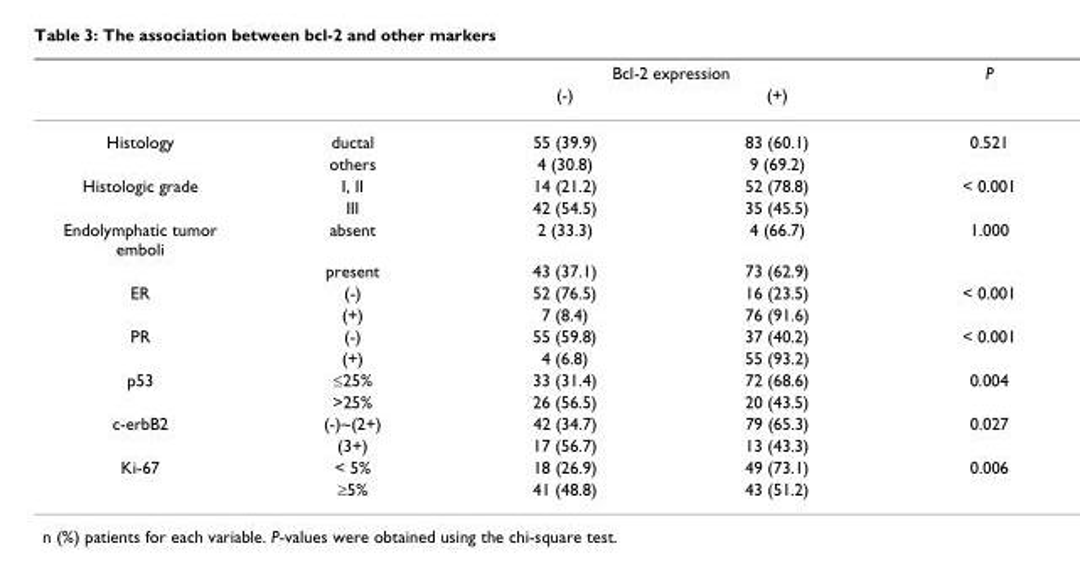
<table><thead><tr><td rowspan="2"></td><td rowspan="2"></td><td colspan="2">Bcl-2 expression</td><td rowspan="2">P</td></tr><tr><td>(-)</td><td>(+)</td></tr></thead><tbody><tr><td rowspan="2">Histology</td><td>ductal</td><td>55 (39.9)</td><td>83 (60.1)</td><td>0.521</td></tr><tr><td>others</td><td>4 (30.8)</td><td>9 (69.2)</td><td></td></tr><tr><td rowspan="2">Histologic grade</td><td>I, II</td><td>14 (21.2)</td><td>52 (78.8)</td><td>&lt; 0.001</td></tr><tr><td>III</td><td>42 (54.5)</td><td>35 (45.5)</td><td></td></tr><tr><td rowspan="2">Endolymphatic tumor emboli</td><td>absent</td><td>2 (33.3)</td><td>4 (66.7)</td><td>1.000</td></tr><tr><td>present</td><td>43 (37.1)</td><td>73 (62.9)</td><td></td></tr><tr><td rowspan="2">ER</td><td>(-)</td><td>52 (76.5)</td><td>16 (23.5)</td><td>&lt; 0.001</td></tr><tr><td>(+)</td><td>7 (8.4)</td><td>76 (91.6)</td><td></td></tr><tr><td rowspan="2">PR</td><td>(-)</td><td>55 (59.8)</td><td>37 (40.2)</td><td>&lt; 0.001</td></tr><tr><td>(+)</td><td>4 (6.8)</td><td>55 (93.2)</td><td></td></tr><tr><td rowspan="2">p53</td><td>≤25%</td><td>33 (31.4)</td><td>72 (68.6)</td><td>0.004</td></tr><tr><td>&gt;25%</td><td>26 (56.5)</td><td>20 (43.5)</td><td></td></tr><tr><td rowspan="2">c-erbB2</td><td>(-)~(2+)</td><td>42 (34.7)</td><td>79 (65.3)</td><td>0.027</td></tr><tr><td>(3+)</td><td>17 (56.7)</td><td>13 (43.3)</td><td></td></tr><tr><td rowspan="2">Ki-67</td><td>&lt; 5%</td><td>18 (26.9)</td><td>49 (73.1)</td><td>0.006</td></tr><tr><td>≥5%</td><td>41 (48.8)</td><td>43 (51.2)</td><td></td></tr></tbody></table>